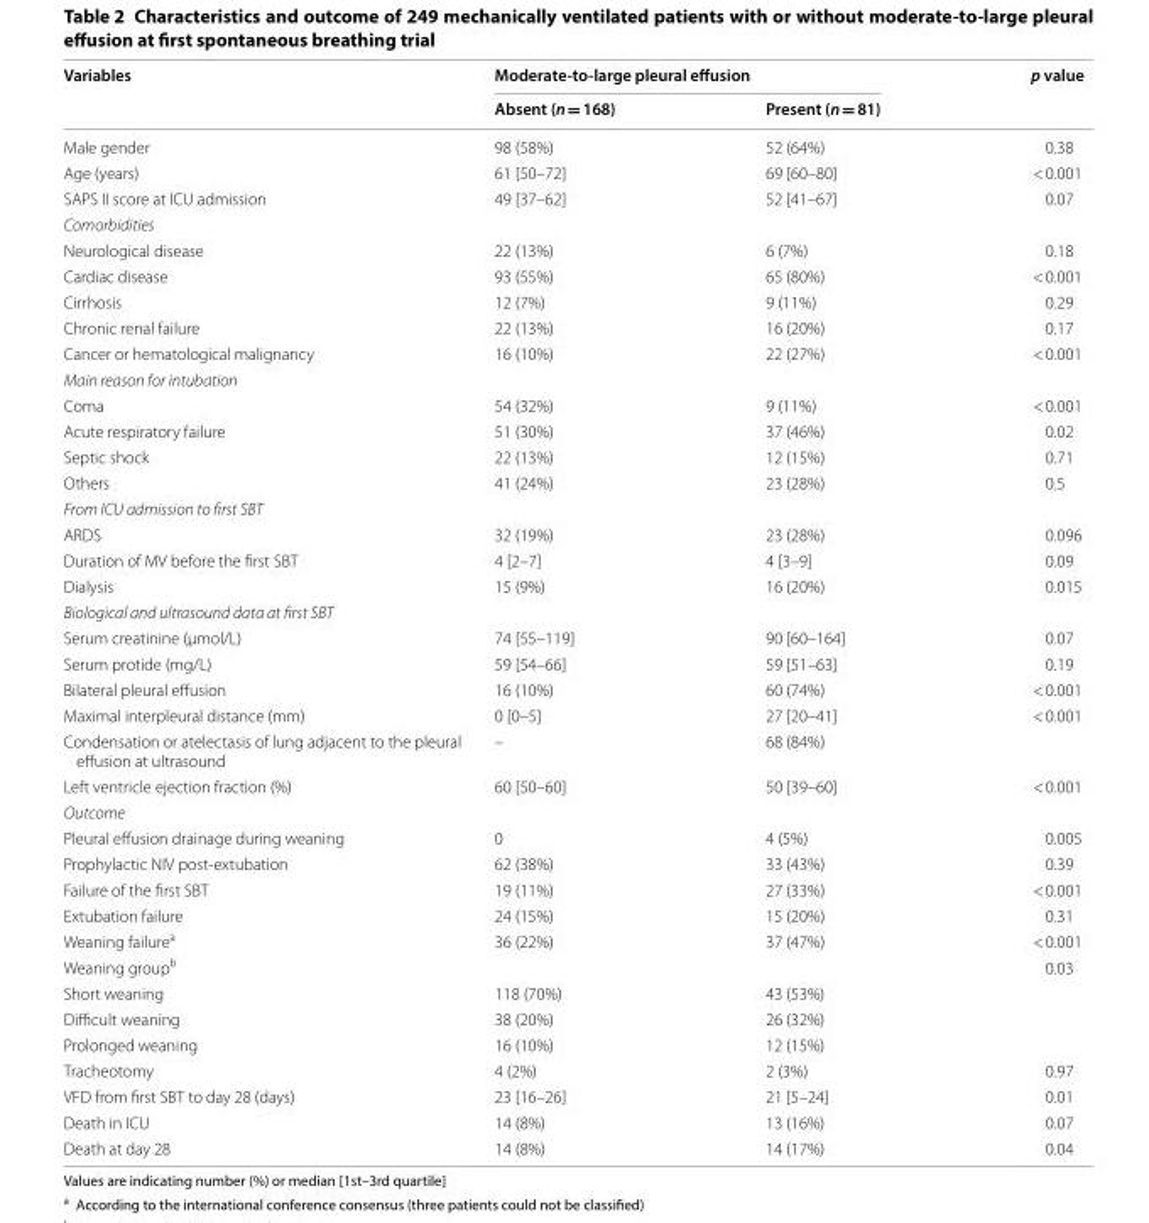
<table><thead><tr><td rowspan="2">Variables</td><td colspan="2">Moderate-to-large pleural effusion</td><td rowspan="2">p value</td></tr><tr><td>Absent (n = 168)</td><td>Present (n = 81)</td></tr></thead><tbody><tr><td>Male gender</td><td>98 (58%)</td><td>52 (64%)</td><td>0.38</td></tr><tr><td>Age (years)</td><td>61 [50–72]</td><td>69 [60–80]</td><td>&lt; 0.001</td></tr><tr><td>SAPS II score at ICU admission</td><td>49 [37–62]</td><td>52 [41–67]</td><td>0.07</td></tr><tr><td colspan="4">Comorbidities</td></tr><tr><td>Neurological disease</td><td>22 (13%)</td><td>6 (7%)</td><td>0.18</td></tr><tr><td>Cardiac disease</td><td>93 (55%)</td><td>65 (80%)</td><td>&lt; 0.001</td></tr><tr><td>Cirrhosis</td><td>12 (7%)</td><td>9 (11%)</td><td>0.29</td></tr><tr><td>Chronic renal failure</td><td>22 (13%)</td><td>16 (20%)</td><td>0.17</td></tr><tr><td>Cancer or hematological malignancy</td><td>16 (10%)</td><td>22 (27%)</td><td>&lt; 0.001</td></tr><tr><td colspan="4">Main reason for intubation</td></tr><tr><td>Coma</td><td>54 (32%)</td><td>9 (11%)</td><td>&lt; 0.001</td></tr><tr><td>Acute respiratory failure</td><td>51 (30%)</td><td>37 (46%)</td><td>0.02</td></tr><tr><td>Septic shock</td><td>22 (13%)</td><td>12 (15%)</td><td>0.71</td></tr><tr><td>Others</td><td>41 (24%)</td><td>23 (28%)</td><td>0.5</td></tr><tr><td colspan="4">From ICU admission to first SBT</td></tr><tr><td>ARDS</td><td>32 (19%)</td><td>23 (28%)</td><td>0.096</td></tr><tr><td>Duration of MV before the first SBT</td><td>4 [2–7]</td><td>4 [3–9]</td><td>0.09</td></tr><tr><td>Dialysis</td><td>15 (9%)</td><td>16 (20%)</td><td>0.015</td></tr><tr><td colspan="4">Biological and ultrasound data at first SBT</td></tr><tr><td>Serum creatinine (µmol/L)</td><td>74 [55–119]</td><td>90 [60–164]</td><td>0.07</td></tr><tr><td>Serum protide (mg/L)</td><td>59 [54–66]</td><td>59 [51–63]</td><td>0.19</td></tr><tr><td>Bilateral pleural effusion</td><td>16 (10%)</td><td>60 (74%)</td><td>&lt; 0.001</td></tr><tr><td>Maximal interpleural distance (mm)</td><td>0 [0–5]</td><td>27 [20–41]</td><td>&lt; 0.001</td></tr><tr><td>Condensation or atelectasis of lung adjacent to the pleural effusion at ultrasound</td><td>–</td><td>68 (84%)</td><td></td></tr><tr><td>Left ventricle ejection fraction (%)</td><td>60 [50–60]</td><td>50 [39–60]</td><td>&lt; 0.001</td></tr><tr><td colspan="4">Outcome</td></tr><tr><td>Pleural effusion drainage during weaning</td><td>0</td><td>4 (5%)</td><td>0.005</td></tr><tr><td>Prophylactic NIV post‑extubation</td><td>62 (38%)</td><td>33 (43%)</td><td>0.39</td></tr><tr><td>Failure of the first SBT</td><td>19 (11%)</td><td>27 (33%)</td><td>&lt; 0.001</td></tr><tr><td>Extubation failure</td><td>24 (15%)</td><td>15 (20%)</td><td>0.31</td></tr><tr><td>Weaning failure<sup>a</sup></td><td>36 (22%)</td><td>37 (47%)</td><td>&lt; 0.001</td></tr><tr><td>Weaning group<sup>b</sup></td><td></td><td></td><td>0.03</td></tr><tr><td>Short weaning</td><td>118 (70%)</td><td>43 (53%)</td><td></td></tr><tr><td>Difficult weaning</td><td>38 (20%)</td><td>26 (32%)</td><td></td></tr><tr><td>Prolonged weaning</td><td>16 (10%)</td><td>12 (15%)</td><td></td></tr><tr><td>Tracheotomy</td><td>4 (2%)</td><td>2 (3%)</td><td>0.97</td></tr><tr><td>VFD from first SBT to day 28 (days)</td><td>23 [16–26]</td><td>21 [5–24]</td><td>0.01</td></tr><tr><td>Death in ICU</td><td>14 (8%)</td><td>13 (16%)</td><td>0.07</td></tr><tr><td>Death at day 28</td><td>14 (8%)</td><td>14 (17%)</td><td>0.04</td></tr></tbody></table>